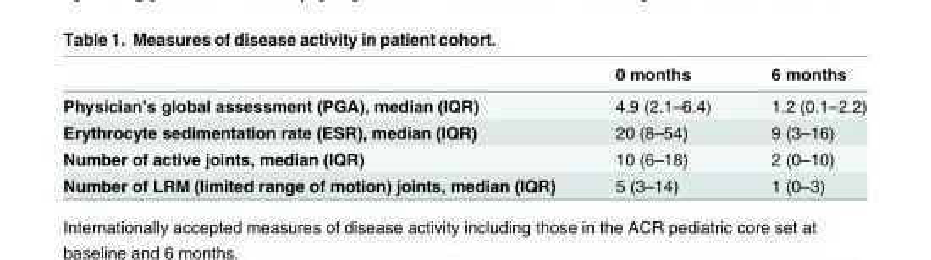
<table><thead><tr><td></td><td>0 months</td><td>6 months</td></tr></thead><tbody><tr><td>Physician’s global assessment (PGA), median (IQR)</td><td>4.9 (2.1–6.4)</td><td>1.2 (0.1–2.2)</td></tr><tr><td>Erythrocyte sedimentation rate (ESR), median (IQR)</td><td>20 (8–54)</td><td>9 (3–16)</td></tr><tr><td>Number of active joints, median (IQR)</td><td>10 (6–18)</td><td>2 (0–10)</td></tr><tr><td>Number of LRM (limited range of motion) joints, median (IQR)</td><td>5 (3–14)</td><td>1 (0–3)</td></tr></tbody></table>